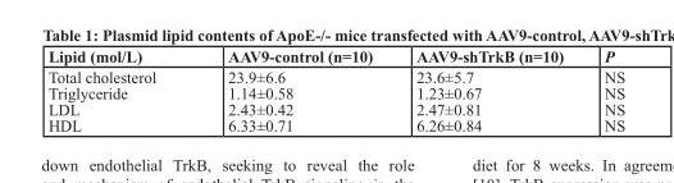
<table><thead><tr><td>Lipid (mol/L)</td><td>AAV9-control (n=10)</td><td>AAV9-shTrkB (n=10)</td><td>P</td></tr></thead><tbody><tr><td>Total cholesterol Triglyceride LDL HDL</td><td>23.9±6.6 1.14±0.58 2.43±0.42 6.33±0.71</td><td>23.6±5.7 1.23±0.67 2.47±0.81 6.26±0.84</td><td>NS NS NS NS</td></tr></tbody></table>